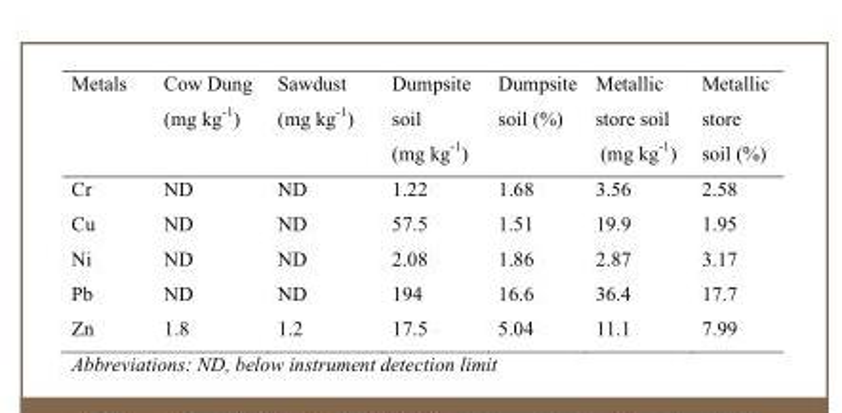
<table><thead><tr><td>Metals</td><td>Cow Dung (mg kg<sup>-1</sup>)</td><td>Sawdust (mg kg<sup>-1</sup>)</td><td>Dumpsite soil (mg kg<sup>-1</sup>)</td><td>Dumpsite soil (%)</td><td>Metallic store soil (mg kg<sup>-1</sup>)</td><td>Metallic store soil (%)</td></tr></thead><tbody><tr><td>Cr</td><td>ND</td><td>ND</td><td>1.22</td><td>1.68</td><td>3.56</td><td>2.58</td></tr><tr><td>Cu</td><td>ND</td><td>ND</td><td>57.5</td><td>1.51</td><td>19.9</td><td>1.95</td></tr><tr><td>Ni</td><td>ND</td><td>ND</td><td>2.08</td><td>1.86</td><td>2.87</td><td>3.17</td></tr><tr><td>Pb</td><td>ND</td><td>ND</td><td>194</td><td>16.6</td><td>36.4</td><td>17.7</td></tr><tr><td>Zn</td><td>1.8</td><td>1.2</td><td>17.5</td><td>5.04</td><td>11.1</td><td>7.99</td></tr></tbody></table>